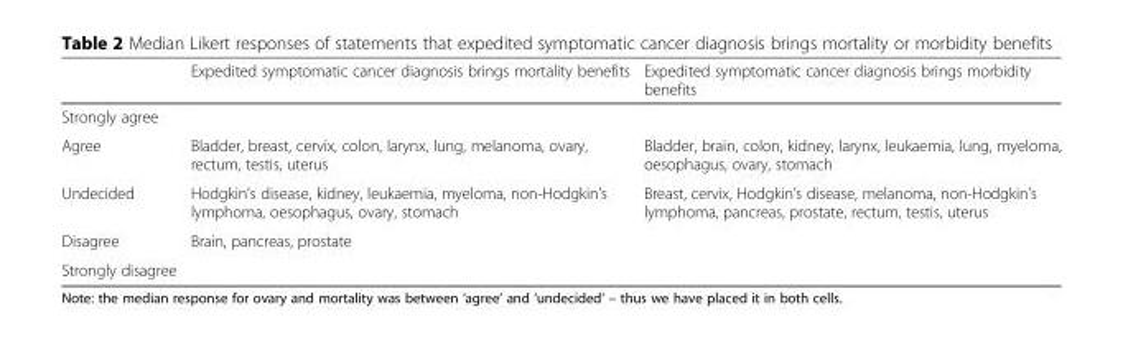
<table><thead><tr><td></td><td>Expedited symptomatic cancer diagnosis brings mortality benefits</td><td>Expedited symptomatic cancer diagnosis brings morbidity benefits</td></tr></thead><tbody><tr><td colspan="3">Strongly agree</td></tr><tr><td>Agree</td><td>Bladder, breast, cervix, colon, larynx, lung, melanoma, ovary, rectum, testis, uterus</td><td>Bladder, brain, colon, kidney, larynx, leukaemia, lung, myeloma, oesophagus, ovary, stomach</td></tr><tr><td>Undecided</td><td>Hodgkin’s disease, kidney, leukaemia, myeloma, non-Hodgkin’s lymphoma, oesophagus, ovary, stomach</td><td>Breast, cervix, Hodgkin’s disease, melanoma, non-Hodgkin’s lymphoma, pancreas, prostate, rectum, testis, uterus</td></tr><tr><td>Disagree</td><td>Brain, pancreas, prostate</td><td></td></tr><tr><td>Strongly disagree</td><td></td><td></td></tr></tbody></table>